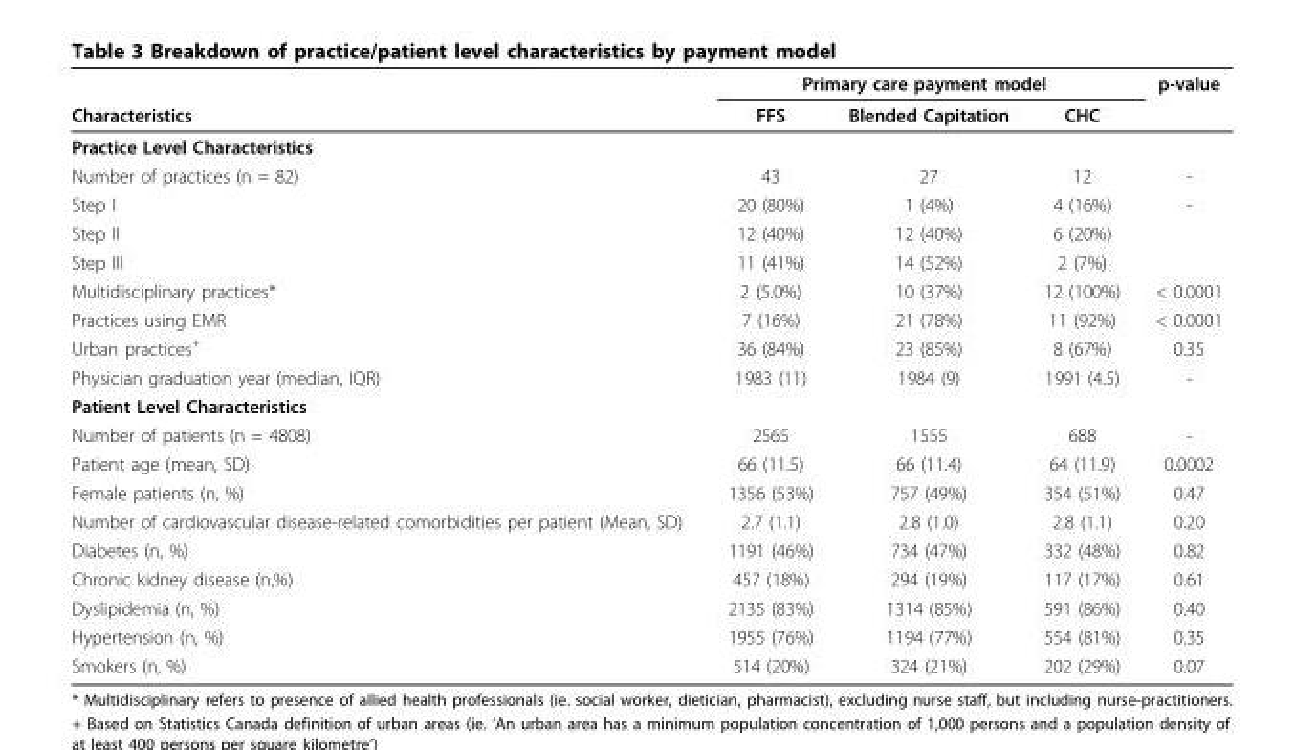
<table><thead><tr><td rowspan="2">Characteristics</td><td colspan="3">Primary care payment model</td><td rowspan="2">p-value</td></tr><tr><td>FFS</td><td>Blended Capitation</td><td>CHC</td></tr></thead><tbody><tr><td colspan="5">Practice Level Characteristics</td></tr><tr><td>Number of practices (n = 82)</td><td>43</td><td>27</td><td>12</td><td>-</td></tr><tr><td>Step I</td><td>20 (80%)</td><td>1 (4%)</td><td>4 (16%)</td><td>-</td></tr><tr><td>Step II</td><td>12 (40%)</td><td>12 (40%)</td><td>6 (20%)</td><td></td></tr><tr><td>Step III</td><td>11 (41%)</td><td>14 (52%)</td><td>2 (7%)</td><td></td></tr><tr><td>Multidisciplinary practices*</td><td>2 (5.0%)</td><td>10 (37%)</td><td>12 (100%)</td><td>&lt; 0.0001</td></tr><tr><td>Practices using EMR</td><td>7 (16%)</td><td>21 (78%)</td><td>11 (92%)</td><td>&lt; 0.0001</td></tr><tr><td>Urban practices<sup>+</sup></td><td>36 (84%)</td><td>23 (85%)</td><td>8 (67%)</td><td>0.35</td></tr><tr><td>Physician graduation year (median, IQR)</td><td>1983 (11)</td><td>1984 (9)</td><td>1991 (4.5)</td><td>-</td></tr><tr><td colspan="5">Patient Level Characteristics</td></tr><tr><td>Number of patients (n = 4808)</td><td>2565</td><td>1555</td><td>688</td><td>-</td></tr><tr><td>Patient age (mean, SD)</td><td>66 (11.5)</td><td>66 (11.4)</td><td>64 (11.9)</td><td>0.0002</td></tr><tr><td>Female patients (n, %)</td><td>1356 (53%)</td><td>757 (49%)</td><td>354 (51%)</td><td>0.47</td></tr><tr><td>Number of cardiovascular disease-related comorbidities per patient (Mean, SD)</td><td>2.7 (1.1)</td><td>2.8 (1.0)</td><td>2.8 (1.1)</td><td>0.20</td></tr><tr><td>Diabetes (n, %)</td><td>1191 (46%)</td><td>734 (47%)</td><td>332 (48%)</td><td>0.82</td></tr><tr><td>Chronic kidney disease (n,%)</td><td>457 (18%)</td><td>294 (19%)</td><td>117 (17%)</td><td>0.61</td></tr><tr><td>Dyslipidemia (n, %)</td><td>2135 (83%)</td><td>1314 (85%)</td><td>591 (86%)</td><td>0.40</td></tr><tr><td>Hypertension (n, %)</td><td>1955 (76%)</td><td>1194 (77%)</td><td>554 (81%)</td><td>0.35</td></tr><tr><td>Smokers (n, %)</td><td>514 (20%)</td><td>324 (21%)</td><td>202 (29%)</td><td>0.07</td></tr></tbody></table>